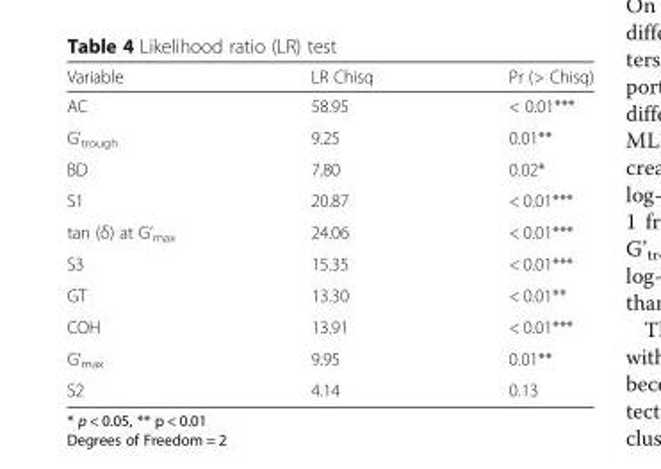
<table><thead><tr><td>Variable</td><td>LR Chisq</td><td>Pr (&gt; Chisq)</td></tr></thead><tbody><tr><td>AC</td><td>58.95</td><td>&lt; 0.01***</td></tr><tr><td>G’<sub>trough</sub></td><td>9.25</td><td>0.01**</td></tr><tr><td>BD</td><td>7.80</td><td>0.02*</td></tr><tr><td>S1</td><td>20.87</td><td>&lt; 0.01***</td></tr><tr><td>tan (δ) at G’<sub>max</sub></td><td>24.06</td><td>&lt; 0.01***</td></tr><tr><td>S3</td><td>15.35</td><td>&lt; 0.01***</td></tr><tr><td>GT</td><td>13.30</td><td>&lt; 0.01**</td></tr><tr><td>COH</td><td>13.91</td><td>&lt; 0.01***</td></tr><tr><td>G’<sub>max</sub></td><td>9.95</td><td>0.01**</td></tr><tr><td>S2</td><td>4.14</td><td>0.13</td></tr></tbody></table>